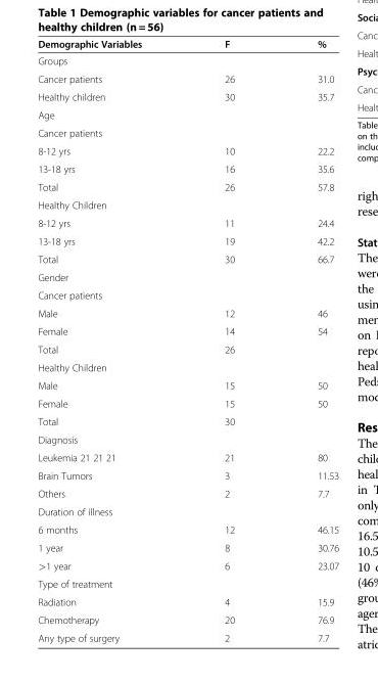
<table><thead><tr><td>Demographic Variables</td><td>F</td><td>%</td></tr></thead><tbody><tr><td colspan="3">Groups</td></tr><tr><td>Cancer patients</td><td>26</td><td>31.0</td></tr><tr><td>Healthy children</td><td>30</td><td>35.7</td></tr><tr><td colspan="3">Age</td></tr><tr><td colspan="3">Cancer patients</td></tr><tr><td>8-12 yrs</td><td>10</td><td>22.2</td></tr><tr><td>13-18 yrs</td><td>16</td><td>35.6</td></tr><tr><td>Total</td><td>26</td><td>57.8</td></tr><tr><td colspan="3">Healthy Children</td></tr><tr><td>8-12 yrs</td><td>11</td><td>24.4</td></tr><tr><td>13-18 yrs</td><td>19</td><td>42.2</td></tr><tr><td>Total</td><td>30</td><td>66.7</td></tr><tr><td colspan="3">Gender</td></tr><tr><td colspan="3">Cancer patients</td></tr><tr><td>Male</td><td>12</td><td>46</td></tr><tr><td>Female</td><td>14</td><td>54</td></tr><tr><td>Total</td><td>26</td><td></td></tr><tr><td colspan="3">Healthy Children</td></tr><tr><td>Male</td><td>15</td><td>50</td></tr><tr><td>Female</td><td>15</td><td>50</td></tr><tr><td>Total</td><td>30</td><td></td></tr><tr><td colspan="3">Diagnosis</td></tr><tr><td>Leukemia 21 21 21</td><td>21</td><td>80</td></tr><tr><td>Brain Tumors</td><td>3</td><td>11.53</td></tr><tr><td>Others</td><td>2</td><td>7.7</td></tr><tr><td colspan="3">Duration of illness</td></tr><tr><td>6 months</td><td>12</td><td>46.15</td></tr><tr><td>1 year</td><td>8</td><td>30.76</td></tr><tr><td>&gt;1 year</td><td>6</td><td>23.07</td></tr><tr><td colspan="3">Type of treatment</td></tr><tr><td>Radiation</td><td>4</td><td>15.9</td></tr><tr><td>Chemotherapy</td><td>20</td><td>76.9</td></tr><tr><td>Any type of surgery</td><td>2</td><td>7.7</td></tr></tbody></table>